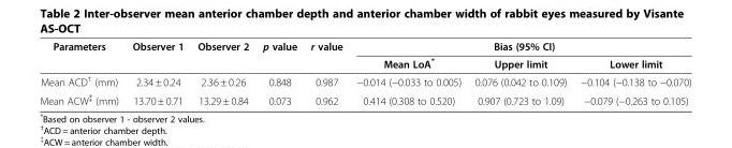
<table><thead><tr><td rowspan="2">Parameters</td><td rowspan="2">Observer 1</td><td rowspan="2">Observer 2</td><td rowspan="2">p value</td><td rowspan="2">r value</td><td rowspan="2">Mean LoA*</td><td rowspan="2">Bias (95% CI) Upper limit</td><td rowspan="2">Lower limit</td></tr><tr></tr></thead><tbody><tr><td>Mean ACD<sup>†</sup> (mm)</td><td>2.34 ± 0.24</td><td>2.36 ± 0.26</td><td>0.848</td><td>0.987</td><td>−0.014 (−0.033 to 0.005)</td><td>0.076 (0.042 to 0.109)</td><td>−0.104 (−0.138 to −0.070)</td></tr><tr><td>Mean ACW<sup>‡</sup> (mm)</td><td>13.70 ± 0.71</td><td>13.29 ± 0.84</td><td>0.073</td><td>0.962</td><td>0.414 (0.308 to 0.520)</td><td>0.907 (0.723 to 1.09)</td><td>−0.079 (−0.263 to 0.105)</td></tr></tbody></table>